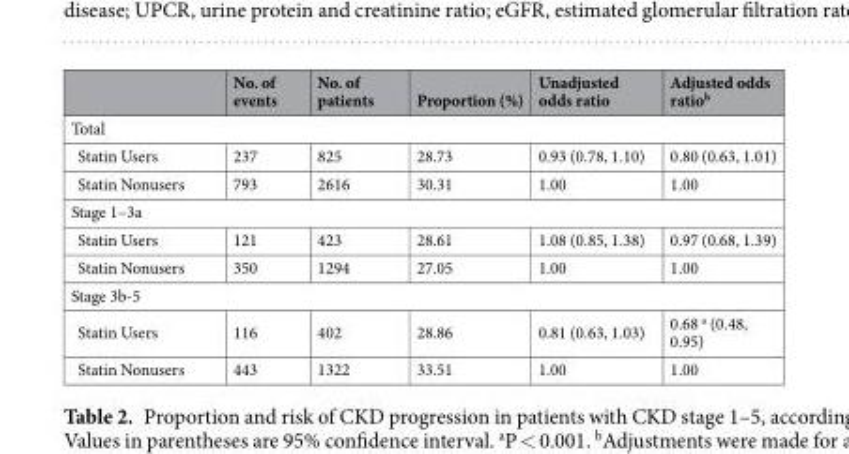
<table><thead><tr><td></td><td>No. of events</td><td>No. of patients</td><td>Proportion (%)</td><td>Unadjusted odds ratio</td><td>Adjusted odds ratio<sup>b</sup></td></tr></thead><tbody><tr><td colspan="6">Total</td></tr><tr><td>Statin Users</td><td>237</td><td>825</td><td>28.73</td><td>0.93 (0.78, 1.10)</td><td>0.80 (0.63, 1.01)</td></tr><tr><td>Statin Nonusers</td><td>793</td><td>2616</td><td>30.31</td><td>1.00</td><td>1.00</td></tr><tr><td colspan="6">Stage 1–3a</td></tr><tr><td>Statin Users</td><td>121</td><td>423</td><td>28.61</td><td>1.08 (0.85, 1.38)</td><td>0.97 (0.68, 1.39)</td></tr><tr><td>Statin Nonusers</td><td>350</td><td>1294</td><td>27.05</td><td>1.00</td><td>1.00</td></tr><tr><td colspan="6">Stage 3b-5</td></tr><tr><td>Statin Users</td><td>116</td><td>402</td><td>28.86</td><td>0.81 (0.63, 1.03)</td><td>0.68 <sup>a</sup> (0.48, 0.95)</td></tr><tr><td>Statin Nonusers</td><td>443</td><td>1322</td><td>33.51</td><td>1.00</td><td>1.00</td></tr></tbody></table>